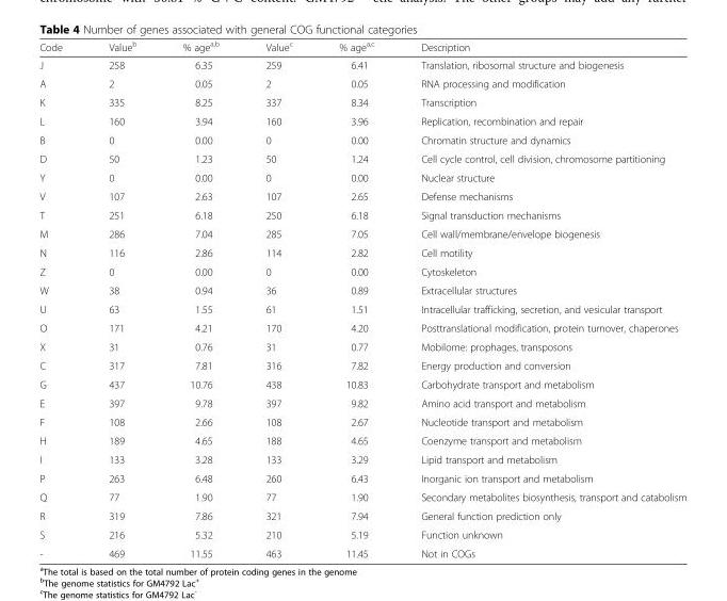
<table><thead><tr><td>Code</td><td>Value<sup>b</sup></td><td>% age<sup>a,b</sup></td><td>Value<sup>c</sup></td><td>% age<sup>a,c</sup></td><td>Description</td></tr></thead><tbody><tr><td>J</td><td>258</td><td>6.35</td><td>259</td><td>6.41</td><td>Translation, ribosomal structure and biogenesis</td></tr><tr><td>A</td><td>2</td><td>0.05</td><td>2</td><td>0.05</td><td>RNA processing and modification</td></tr><tr><td>K</td><td>335</td><td>8.25</td><td>337</td><td>8.34</td><td>Transcription</td></tr><tr><td>L</td><td>160</td><td>3.94</td><td>160</td><td>3.96</td><td>Replication, recombination and repair</td></tr><tr><td>B</td><td>0</td><td>0.00</td><td>0</td><td>0.00</td><td>Chromatin structure and dynamics</td></tr><tr><td>D</td><td>50</td><td>1.23</td><td>50</td><td>1.24</td><td>Cell cycle control, cell division, chromosome partitioning</td></tr><tr><td>Y</td><td>0</td><td>0.00</td><td>0</td><td>0.00</td><td>Nuclear structure</td></tr><tr><td>V</td><td>107</td><td>2.63</td><td>107</td><td>2.65</td><td>Defense mechanisms</td></tr><tr><td>T</td><td>251</td><td>6.18</td><td>250</td><td>6.18</td><td>Signal transduction mechanisms</td></tr><tr><td>M</td><td>286</td><td>7.04</td><td>285</td><td>7.05</td><td>Cell wall/membrane/envelope biogenesis</td></tr><tr><td>N</td><td>116</td><td>2.86</td><td>114</td><td>2.82</td><td>Cell motility</td></tr><tr><td>Z</td><td>0</td><td>0.00</td><td>0</td><td>0.00</td><td>Cytoskeleton</td></tr><tr><td>W</td><td>38</td><td>0.94</td><td>36</td><td>0.89</td><td>Extracellular structures</td></tr><tr><td>U</td><td>63</td><td>1.55</td><td>61</td><td>1.51</td><td>Intracellular trafficking, secretion, and vesicular transport</td></tr><tr><td>O</td><td>171</td><td>4.21</td><td>170</td><td>4.20</td><td>Posttranslational modification, protein turnover, chaperones</td></tr><tr><td>X</td><td>31</td><td>0.76</td><td>31</td><td>0.77</td><td>Mobilome: prophages, transposons</td></tr><tr><td>C</td><td>317</td><td>7.81</td><td>316</td><td>7.82</td><td>Energy production and conversion</td></tr><tr><td>G</td><td>437</td><td>10.76</td><td>438</td><td>10.83</td><td>Carbohydrate transport and metabolism</td></tr><tr><td>E</td><td>397</td><td>9.78</td><td>397</td><td>9.82</td><td>Amino acid transport and metabolism</td></tr><tr><td>F</td><td>108</td><td>2.66</td><td>108</td><td>2.67</td><td>Nucleotide transport and metabolism</td></tr><tr><td>H</td><td>189</td><td>4.65</td><td>188</td><td>4.65</td><td>Coenzyme transport and metabolism</td></tr><tr><td>I</td><td>133</td><td>3.28</td><td>133</td><td>3.29</td><td>Lipid transport and metabolism</td></tr><tr><td>P</td><td>263</td><td>6.48</td><td>260</td><td>6.43</td><td>Inorganic ion transport and metabolism</td></tr><tr><td>Q</td><td>77</td><td>1.90</td><td>77</td><td>1.90</td><td>Secondary metabolites biosynthesis, transport and catabolism</td></tr><tr><td>R</td><td>319</td><td>7.86</td><td>321</td><td>7.94</td><td>General function prediction only</td></tr><tr><td>S</td><td>216</td><td>5.32</td><td>210</td><td>5.19</td><td>Function unknown</td></tr><tr><td>-</td><td>469</td><td>11.55</td><td>463</td><td>11.45</td><td>Not in COGs</td></tr></tbody></table>